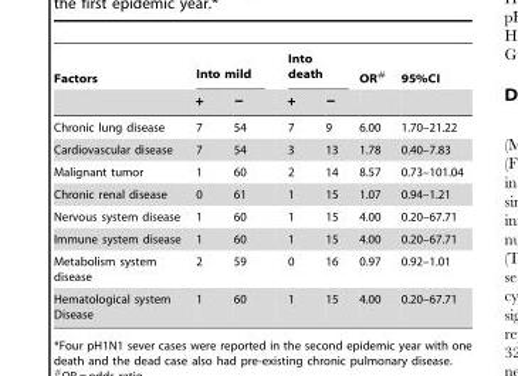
<table><thead><tr><td rowspan="2">Factors</td><td colspan="2">Into mild</td><td colspan="2">Into death</td><td rowspan="2">OR#</td><td rowspan="2">95%CI</td></tr><tr><td>+</td><td>−</td><td>+</td><td>−</td></tr></thead><tbody><tr><td>Chronic lung disease</td><td>7</td><td>54</td><td>7</td><td>9</td><td>6.00</td><td>1.70–21.22</td></tr><tr><td>Cardiovascular disease</td><td>7</td><td>54</td><td>3</td><td>13</td><td>1.78</td><td>0.40–7.83</td></tr><tr><td>Malignant tumor</td><td>1</td><td>60</td><td>2</td><td>14</td><td>8.57</td><td>0.73–101.04</td></tr><tr><td>Chronic renal disease</td><td>0</td><td>61</td><td>1</td><td>15</td><td>1.07</td><td>0.94–1.21</td></tr><tr><td>Nervous system disease</td><td>1</td><td>60</td><td>1</td><td>15</td><td>4.00</td><td>0.20–67.71</td></tr><tr><td>Immune system disease</td><td>1</td><td>60</td><td>1</td><td>15</td><td>4.00</td><td>0.20–67.71</td></tr><tr><td>Metabolism system disease</td><td>2</td><td>59</td><td>0</td><td>16</td><td>0.97</td><td>0.92–1.01</td></tr><tr><td>Hematological system Disease</td><td>1</td><td>60</td><td>1</td><td>15</td><td>4.00</td><td>0.20–67.71</td></tr></tbody></table>